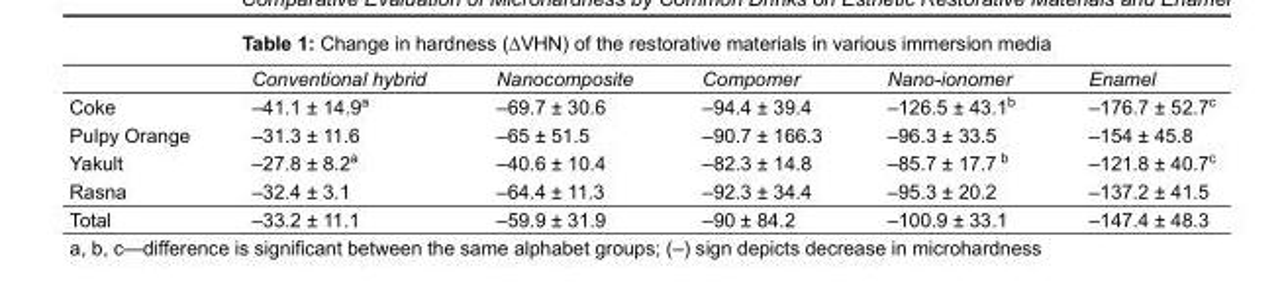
<table><thead><tr><td></td><td>Conventional hybrid</td><td>Nanocomposite</td><td>Compomer</td><td>Nano-ionomer</td><td>Enamel</td></tr></thead><tbody><tr><td>Coke</td><td>–41.1 ± 14.9<sup>a</sup></td><td>–69.7 ± 30.6</td><td>–94.4 ± 39.4</td><td>–126.5 ± 43.1<sup>b</sup></td><td>–176.7 ± 52.7<sup>c</sup></td></tr><tr><td>Pulpy Orange</td><td>–31.3 ± 11.6</td><td>–65 ± 51.5</td><td>–90.7 ± 166.3</td><td>–96.3 ± 33.5</td><td>–154 ± 45.8</td></tr><tr><td>Yakult</td><td>–27.8 ± 8.2<sup>a</sup></td><td>–40.6 ± 10.4</td><td>–82.3 ± 14.8</td><td>–85.7 ± 17.7 <sup>b</sup></td><td>–121.8 ± 40.7<sup>c</sup></td></tr><tr><td>Rasna</td><td>–32.4 ± 3.1</td><td>–64.4 ± 11.3</td><td>–92.3 ± 34.4</td><td>–95.3 ± 20.2</td><td>–137.2 ± 41.5</td></tr><tr><td>Total</td><td>–33.2 ± 11.1</td><td>–59.9 ± 31.9</td><td>–90 ± 84.2</td><td>–100.9 ± 33.1</td><td>–147.4 ± 48.3</td></tr></tbody></table>